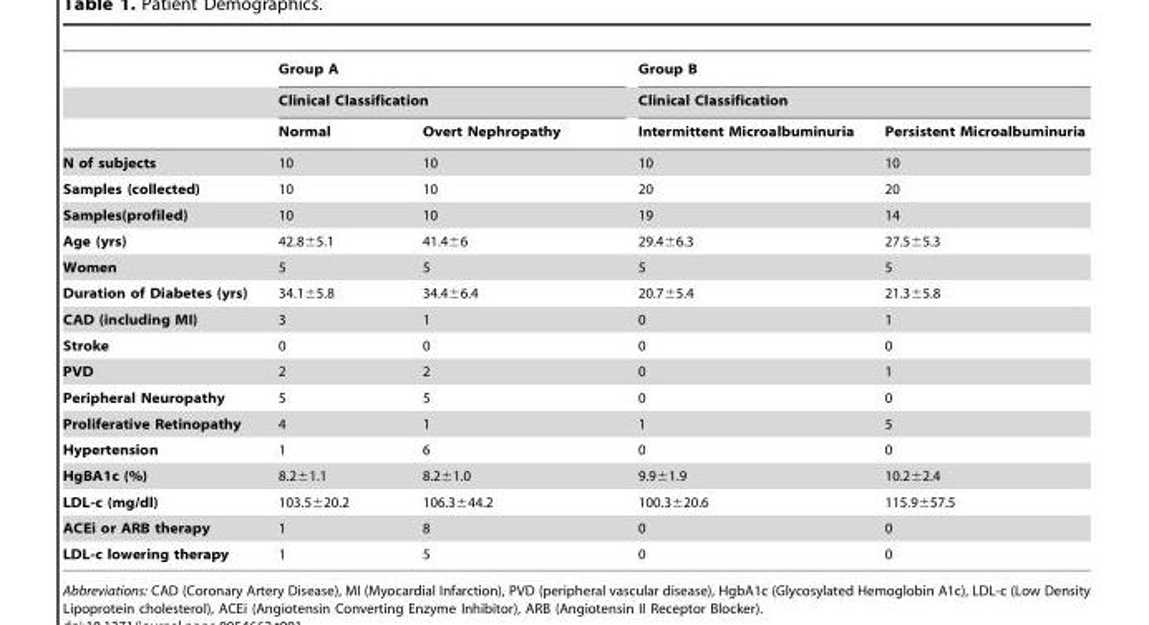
<table><thead><tr><td rowspan="3"></td><td rowspan="2" colspan="2">Group A Clinical Classification</td><td rowspan="2" colspan="2">Group B Clinical Classification</td></tr><tr></tr><tr><td>Normal</td><td>Overt Nephropathy</td><td>Intermittent Microalbuminuria</td><td>Persistent Microalbuminuria</td></tr></thead><tbody><tr><td>N of subjects</td><td>10</td><td>10</td><td>10</td><td>10</td></tr><tr><td>Samples (collected)</td><td>10</td><td>10</td><td>20</td><td>20</td></tr><tr><td>Samples(profiled)</td><td>10</td><td>10</td><td>19</td><td>14</td></tr><tr><td>Age (yrs)</td><td>42.8±5.1</td><td>41.4±6</td><td>29.4±6.3</td><td>27.5±5.3</td></tr><tr><td>Women</td><td>5</td><td>5</td><td>5</td><td>5</td></tr><tr><td>Duration of Diabetes (yrs)</td><td>34.1±5.8</td><td>34.4±6.4</td><td>20.7±5.4</td><td>21.3±5.8</td></tr><tr><td>CAD (including MI)</td><td>3</td><td>1</td><td>0</td><td>1</td></tr><tr><td>Stroke</td><td>0</td><td>0</td><td>0</td><td>0</td></tr><tr><td>PVD</td><td>2</td><td>2</td><td>0</td><td>1</td></tr><tr><td>Peripheral Neuropathy</td><td>5</td><td>5</td><td>0</td><td>0</td></tr><tr><td>Proliferative Retinopathy</td><td>4</td><td>1</td><td>1</td><td>5</td></tr><tr><td>Hypertension</td><td>1</td><td>6</td><td>0</td><td>0</td></tr><tr><td>HgBA1c (%)</td><td>8.2±1.1</td><td>8.2±1.0</td><td>9.9±1.9</td><td>10.2±2.4</td></tr><tr><td>LDL-c (mg/dl)</td><td>103.5±20.2</td><td>106.3±44.2</td><td>100.3±20.6</td><td>115.9±57.5</td></tr><tr><td>ACEi or ARB therapy</td><td>1</td><td>8</td><td>0</td><td>0</td></tr><tr><td>LDL-c lowering therapy</td><td>1</td><td>5</td><td>0</td><td>0</td></tr></tbody></table>